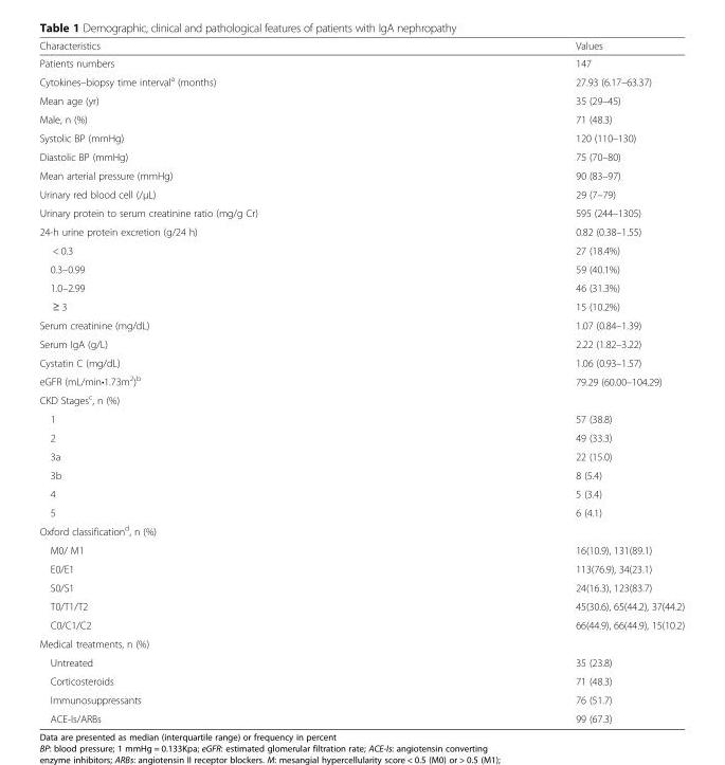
<table><thead><tr><td>Characteristics</td><td>Values</td></tr></thead><tbody><tr><td>Patients numbers</td><td>147</td></tr><tr><td>Cytokines–biopsy time interval<sup>a</sup> (months)</td><td>27.93 (6.17–63.37)</td></tr><tr><td>Mean age (yr)</td><td>35 (29–45)</td></tr><tr><td>Male, n (%)</td><td>71 (48.3)</td></tr><tr><td>Systolic BP (mmHg)</td><td>120 (110–130)</td></tr><tr><td>Diastolic BP (mmHg)</td><td>75 (70–80)</td></tr><tr><td>Mean arterial pressure (mmHg)</td><td>90 (83–97)</td></tr><tr><td>Urinary red blood cell (/μL)</td><td>29 (7–79)</td></tr><tr><td>Urinary protein to serum creatinine ratio (mg/g Cr)</td><td>595 (244–1305)</td></tr><tr><td>24-h urine protein excretion (g/24 h)</td><td>0.82 (0.38–1.55)</td></tr><tr><td>&lt; 0.3</td><td>27 (18.4%)</td></tr><tr><td>0.3–0.99</td><td>59 (40.1%)</td></tr><tr><td>1.0–2.99</td><td>46 (31.3%)</td></tr><tr><td>≥ 3</td><td>15 (10.2%)</td></tr><tr><td>Serum creatinine (mg/dL)</td><td>1.07 (0.84–1.39)</td></tr><tr><td>Serum IgA (g/L)</td><td>2.22 (1.82–3.22)</td></tr><tr><td>Cystatin C (mg/dL)</td><td>1.06 (0.93–1.57)</td></tr><tr><td>eGFR (mL/min•1.73m<sup>2</sup>)<sup>b</sup></td><td>79.29 (60.00–104.29)</td></tr><tr><td colspan="2">CKD Stages<sup>c</sup>, n (%)</td></tr><tr><td>1</td><td>57 (38.8)</td></tr><tr><td>2</td><td>49 (33.3)</td></tr><tr><td>3a</td><td>22 (15.0)</td></tr><tr><td>3b</td><td>8 (5.4)</td></tr><tr><td>4</td><td>5 (3.4)</td></tr><tr><td>5</td><td>6 (4.1)</td></tr><tr><td colspan="2">Oxford classification<sup>d</sup>, n (%)</td></tr><tr><td>M0/ M1</td><td>16(10.9), 131(89.1)</td></tr><tr><td>E0/E1</td><td>113(76.9), 34(23.1)</td></tr><tr><td>S0/S1</td><td>24(16.3), 123(83.7)</td></tr><tr><td>T0/T1/T2</td><td>45(30.6), 65(44.2), 37(44.2)</td></tr><tr><td>C0/C1/C2</td><td>66(44.9), 66(44.9), 15(10.2)</td></tr><tr><td colspan="2">Medical treatments, n (%)</td></tr><tr><td>Untreated</td><td>35 (23.8)</td></tr><tr><td>Corticosteroids</td><td>71 (48.3)</td></tr><tr><td>Immunosuppressants</td><td>76 (51.7)</td></tr><tr><td>ACE-Is/ARBs</td><td>99 (67.3)</td></tr></tbody></table>